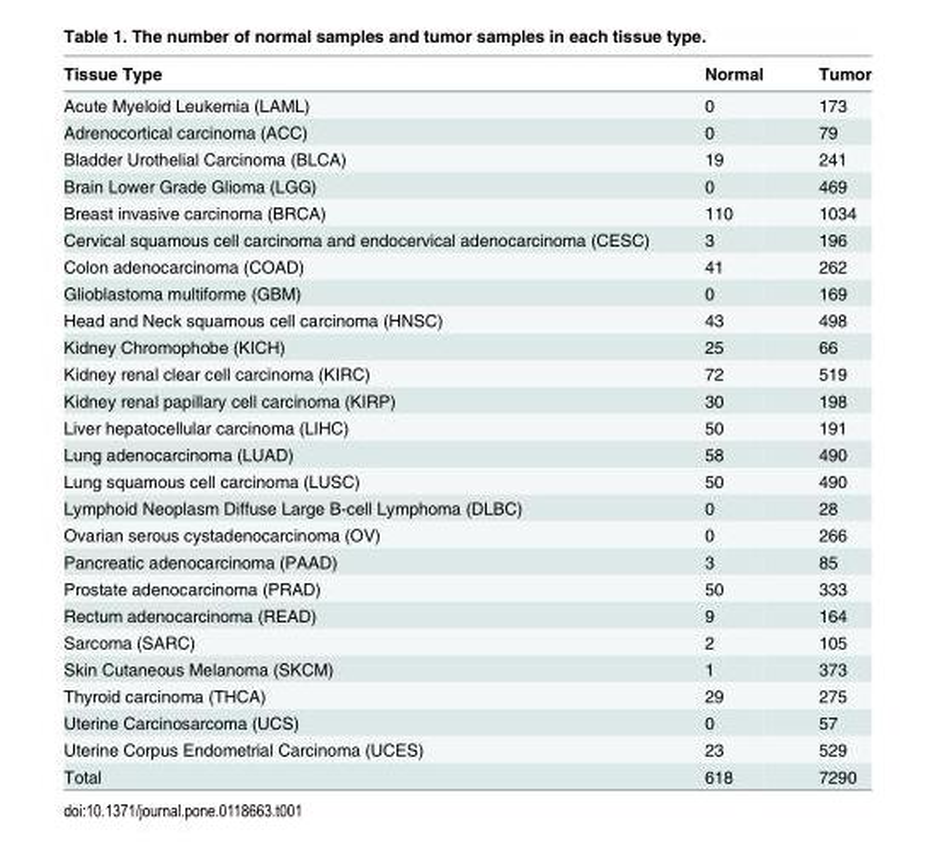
<table><thead><tr><td>Tissue Type</td><td>Normal</td><td>Tumor</td></tr></thead><tbody><tr><td>Acute Myeloid Leukemia (LAML)</td><td>0</td><td>173</td></tr><tr><td>Adrenocortical carcinoma (ACC)</td><td>0</td><td>79</td></tr><tr><td>Bladder Urothelial Carcinoma (BLCA)</td><td>19</td><td>241</td></tr><tr><td>Brain Lower Grade Glioma (LGG)</td><td>0</td><td>469</td></tr><tr><td>Breast invasive carcinoma (BRCA)</td><td>110</td><td>1034</td></tr><tr><td>Cervical squamous cell carcinoma and endocervical adenocarcinoma (CESC)</td><td>3</td><td>196</td></tr><tr><td>Colon adenocarcinoma (COAD)</td><td>41</td><td>262</td></tr><tr><td>Glioblastoma multiforme (GBM)</td><td>0</td><td>169</td></tr><tr><td>Head and Neck squamous cell carcinoma (HNSC)</td><td>43</td><td>498</td></tr><tr><td>Kidney Chromophobe (KICH)</td><td>25</td><td>66</td></tr><tr><td>Kidney renal clear cell carcinoma (KIRC)</td><td>72</td><td>519</td></tr><tr><td>Kidney renal papillary cell carcinoma (KIRP)</td><td>30</td><td>198</td></tr><tr><td>Liver hepatocellular carcinoma (LIHC)</td><td>50</td><td>191</td></tr><tr><td>Lung adenocarcinoma (LUAD)</td><td>58</td><td>490</td></tr><tr><td>Lung squamous cell carcinoma (LUSC)</td><td>50</td><td>490</td></tr><tr><td>Lymphoid Neoplasm Diffuse Large B-cell Lymphoma (DLBC)</td><td>0</td><td>28</td></tr><tr><td>Ovarian serous cystadenocarcinoma (OV)</td><td>0</td><td>266</td></tr><tr><td>Pancreatic adenocarcinoma (PAAD)</td><td>3</td><td>85</td></tr><tr><td>Prostate adenocarcinoma (PRAD)</td><td>50</td><td>333</td></tr><tr><td>Rectum adenocarcinoma (READ)</td><td>9</td><td>164</td></tr><tr><td>Sarcoma (SARC)</td><td>2</td><td>105</td></tr><tr><td>Skin Cutaneous Melanoma (SKCM)</td><td>1</td><td>373</td></tr><tr><td>Thyroid carcinoma (THCA)</td><td>29</td><td>275</td></tr><tr><td>Uterine Carcinosarcoma (UCS)</td><td>0</td><td>57</td></tr><tr><td>Uterine Corpus Endometrial Carcinoma (UCES)</td><td>23</td><td>529</td></tr><tr><td>Total</td><td>618</td><td>7290</td></tr></tbody></table>